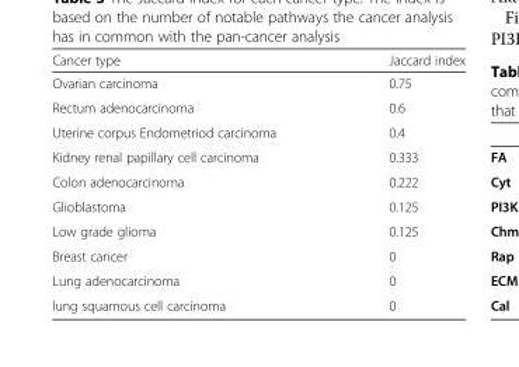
<table><thead><tr><td>Cancer type</td><td>Jaccard index</td></tr></thead><tbody><tr><td>Ovarian carcinoma</td><td>0.75</td></tr><tr><td>Rectum adenocarcinoma</td><td>0.6</td></tr><tr><td>Uterine corpus Endometriod carcinoma</td><td>0.4</td></tr><tr><td>Kidney renal papillary cell carcinoma</td><td>0.333</td></tr><tr><td>Colon adenocarcinoma</td><td>0.222</td></tr><tr><td>Glioblastoma</td><td>0.125</td></tr><tr><td>Low grade glioma</td><td>0.125</td></tr><tr><td>Breast cancer</td><td>0</td></tr><tr><td>Lung adenocarcinoma</td><td>0</td></tr><tr><td>lung squamous cell carcinoma</td><td>0</td></tr></tbody></table>